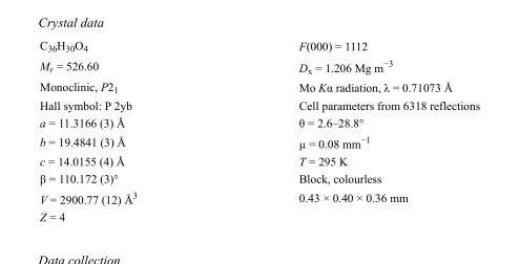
<table><tbody><tr><td>C<sub>36</sub>H<sub>30</sub>O<sub>4</sub></td><td>F(000) = 1112</td></tr><tr><td>M<sub>r</sub> = 526.60</td><td>D<sub>x</sub> = 1.206 Mg m<sup>−3</sup></td></tr><tr><td>Monoclinic, P2<sub>1</sub></td><td>Mo Kα radiation, λ = 0.71073 Å</td></tr><tr><td>Hall symbol: P 2yb</td><td>Cell parameters from 6318 reflections</td></tr><tr><td>a = 11.3166 (3) Å</td><td>θ = 2.6–28.8°</td></tr><tr><td>b = 19.4841 (3) Å</td><td>µ = 0.08 mm<sup>−1</sup></td></tr><tr><td>c = 14.0155 (4) Å</td><td>T = 295 K</td></tr><tr><td>β = 110.172 (3)°</td><td>Block, colourless</td></tr><tr><td>V = 2900.77 (12) Å<sup>3</sup></td><td>0.43 × 0.40 × 0.36 mm</td></tr><tr><td>Z = 4</td><td></td></tr></tbody></table>